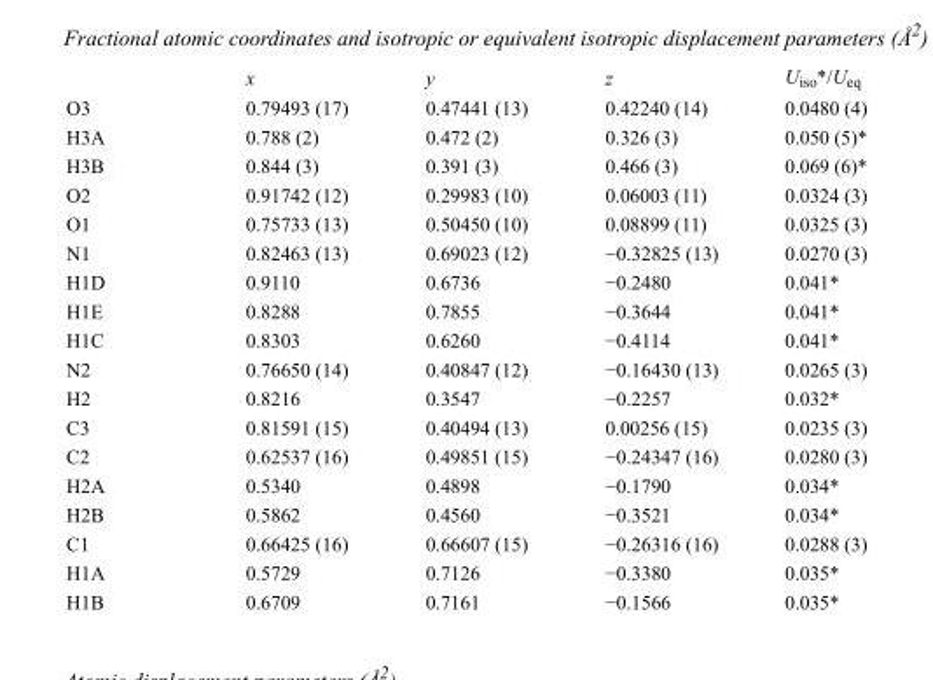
<table><thead><tr><td></td><td>x</td><td>y</td><td>z</td><td>U<sub>iso</sub>*/U<sub>eq</sub></td></tr></thead><tbody><tr><td>O3</td><td>0.79493 (17)</td><td>0.47441 (13)</td><td>0.42240 (14)</td><td>0.0480 (4)</td></tr><tr><td>H3A</td><td>0.788 (2)</td><td>0.472 (2)</td><td>0.326 (3)</td><td>0.050 (5)*</td></tr><tr><td>H3B</td><td>0.844 (3)</td><td>0.391 (3)</td><td>0.466 (3)</td><td>0.069 (6)*</td></tr><tr><td>O2</td><td>0.91742 (12)</td><td>0.29983 (10)</td><td>0.06003 (11)</td><td>0.0324 (3)</td></tr><tr><td>O1</td><td>0.75733 (13)</td><td>0.50450 (10)</td><td>0.08899 (11)</td><td>0.0325 (3)</td></tr><tr><td>N1</td><td>0.82463 (13)</td><td>0.69023 (12)</td><td>−0.32825 (13)</td><td>0.0270 (3)</td></tr><tr><td>H1D</td><td>0.9110</td><td>0.6736</td><td>−0.2480</td><td>0.041*</td></tr><tr><td>H1E</td><td>0.8288</td><td>0.7855</td><td>−0.3644</td><td>0.041*</td></tr><tr><td>H1C</td><td>0.8303</td><td>0.6260</td><td>−0.4114</td><td>0.041*</td></tr><tr><td>N2</td><td>0.76650 (14)</td><td>0.40847 (12)</td><td>−0.16430 (13)</td><td>0.0265 (3)</td></tr><tr><td>H2</td><td>0.8216</td><td>0.3547</td><td>−0.2257</td><td>0.032*</td></tr><tr><td>C3</td><td>0.81591 (15)</td><td>0.40494 (13)</td><td>0.00256 (15)</td><td>0.0235 (3)</td></tr><tr><td>C2</td><td>0.62537 (16)</td><td>0.49851 (15)</td><td>−0.24347 (16)</td><td>0.0280 (3)</td></tr><tr><td>H2A</td><td>0.5340</td><td>0.4898</td><td>−0.1790</td><td>0.034*</td></tr><tr><td>H2B</td><td>0.5862</td><td>0.4560</td><td>−0.3521</td><td>0.034*</td></tr><tr><td>C1</td><td>0.66425 (16)</td><td>0.66607 (15)</td><td>−0.26316 (16)</td><td>0.0288 (3)</td></tr><tr><td>H1A</td><td>0.5729</td><td>0.7126</td><td>−0.3380</td><td>0.035*</td></tr><tr><td>H1B</td><td>0.6709</td><td>0.7161</td><td>−0.1566</td><td>0.035*</td></tr></tbody></table>